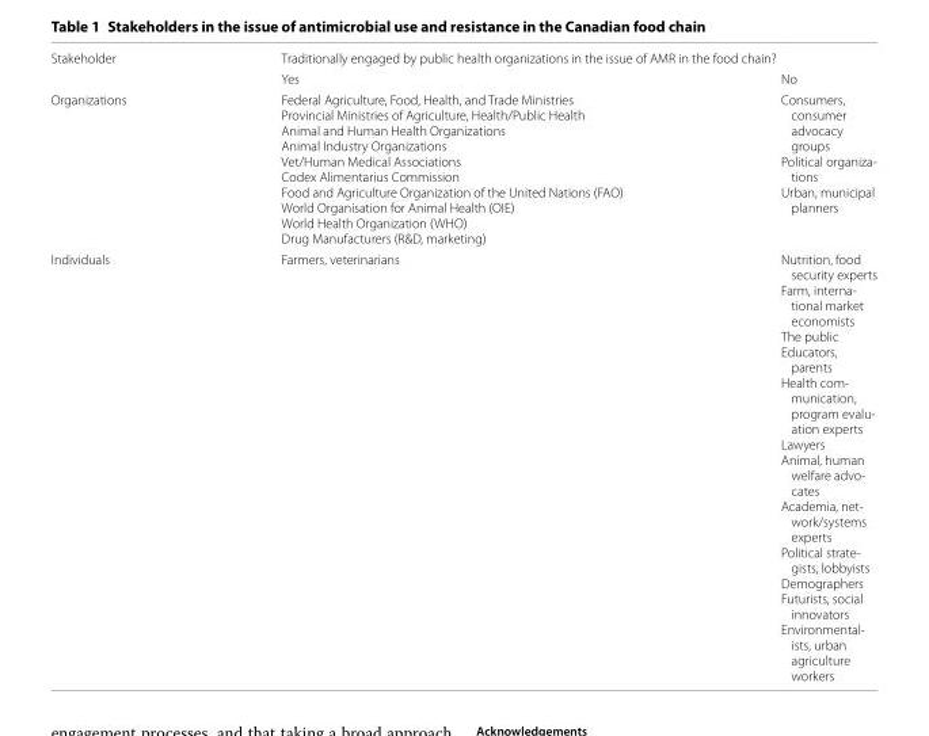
<table><tbody><tr><td rowspan="2">Stakeholder</td><td colspan="2">Traditionally engaged by public health organizations in the issue of AMR in the food chain?</td></tr><tr><td>Yes</td><td>No</td></tr><tr><td>Organizations</td><td>Federal Agriculture, Food, Health, and Trade Ministries Provincial Ministries of Agriculture, Health/Public Health Animal and Human Health Organizations Animal Industry Organizations Vet/Human Medical Associations Codex Alimentarius Commission Food and Agriculture Organization of the United Nations (FAO) World Organisation for Animal Health (OIE) World Health Organization (WHO) Drug Manufacturers (R&amp;D, marketing)</td><td>Consumers, consumer advocacy groups Political organiza- tions Urban, municipal planners</td></tr><tr><td>Individuals</td><td>Farmers, veterinarians</td><td>Nutrition, food security experts Farm, interna- tional market economists The public Educators, parents Health com- munication, program evalu- ation experts Lawyers Animal, human welfare advo- cates Academia, net- work/systems experts Political strate- gists, lobbyists Demographers Futurists, social innovators Environmental- ists, urban agriculture workers</td></tr></tbody></table>